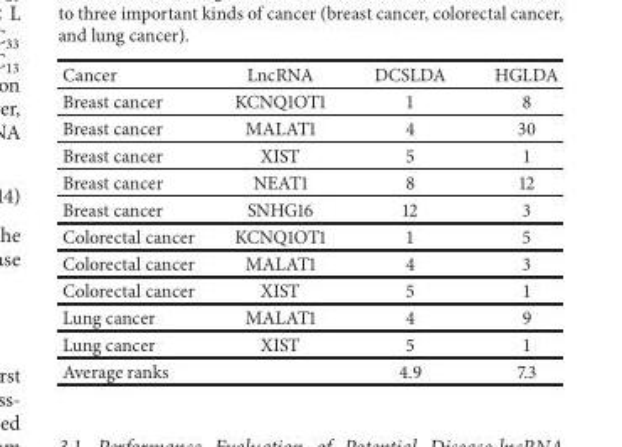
<table><thead><tr><td>Cancer</td><td>LncRNA</td><td>DCSLDA</td><td>HGLDA</td></tr></thead><tbody><tr><td>Breast cancer</td><td>KCNQ1OT1</td><td>1</td><td>8</td></tr><tr><td>Breast cancer</td><td>MALAT1</td><td>4</td><td>30</td></tr><tr><td>Breast cancer</td><td>XIST</td><td>5</td><td>1</td></tr><tr><td>Breast cancer</td><td>NEAT1</td><td>8</td><td>12</td></tr><tr><td>Breast cancer</td><td>SNHG16</td><td>12</td><td>3</td></tr><tr><td>Colorectal cancer</td><td>KCNQ1OT1</td><td>1</td><td>5</td></tr><tr><td>Colorectal cancer</td><td>MALAT1</td><td>4</td><td>3</td></tr><tr><td>Colorectal cancer</td><td>XIST</td><td>5</td><td>1</td></tr><tr><td>Lung cancer</td><td>MALAT1</td><td>4</td><td>9</td></tr><tr><td>Lung cancer</td><td>XIST</td><td>5</td><td>1</td></tr><tr><td>Average ranks</td><td></td><td>4.9</td><td>7.3</td></tr></tbody></table>